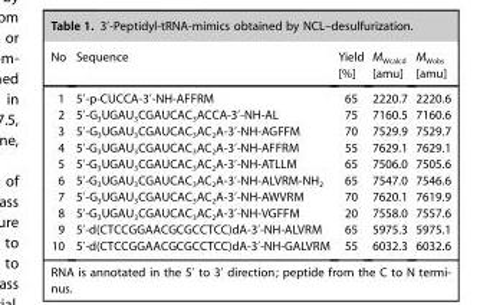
<table><thead><tr><td>No</td><td>Sequence</td><td>Yield [%]</td><td>M<sub>Wcalcd</sub> [amu]</td><td>M<sub>Wobs</sub> [amu]</td></tr></thead><tbody><tr><td>1</td><td>5’-p-CUCCA-3’-NH-AFFRM</td><td>65</td><td>2220.7</td><td>2220.6</td></tr><tr><td>2</td><td>5’-G<sub>3</sub>UGAU<sub>3</sub>CGAUCAC<sub>3</sub>ACCA-3’-NH-AL</td><td>75</td><td>7160.5</td><td>7160.6</td></tr><tr><td>3</td><td>5’-G<sub>3</sub>UGAU<sub>3</sub>CGAUCAC<sub>3</sub>AC<sub>2</sub>A-3’-NH-AGFFM</td><td>70</td><td>7529.9</td><td>7529.7</td></tr><tr><td>4</td><td>5’-G<sub>3</sub>UGAU<sub>3</sub>CGAUCAC<sub>3</sub>AC<sub>2</sub>A-3’-NH-AFFRM</td><td>55</td><td>7629.1</td><td>7629.1</td></tr><tr><td>5</td><td>5’-G<sub>3</sub>UGAU<sub>3</sub>CGAUCAC<sub>3</sub>AC<sub>2</sub>A-3’-NH-ATLLM</td><td>65</td><td>7506.0</td><td>7505.6</td></tr><tr><td>6</td><td>5’-G<sub>3</sub>UGAU<sub>3</sub>CGAUCAC<sub>3</sub>AC<sub>2</sub>A-3’-NH-ALVRM-NH<sub>2</sub></td><td>65</td><td>7547.0</td><td>7546.6</td></tr><tr><td>7</td><td>5’-G<sub>3</sub>UGAU<sub>3</sub>CGAUCAC<sub>3</sub>AC<sub>2</sub>A-3’-NH-AWVRM</td><td>70</td><td>7620.1</td><td>7619.9</td></tr><tr><td>8</td><td>5’-G<sub>3</sub>UGAU<sub>3</sub>CGAUCAC<sub>3</sub>AC<sub>2</sub>A-3’-NH-VGFFM</td><td>20</td><td>7558.0</td><td>7557.6</td></tr><tr><td>9</td><td>5’-d(CTCCGGAACGCGCCTCC)dA-3’-NH-ALVRM</td><td>65</td><td>5975.3</td><td>5975.1</td></tr><tr><td>10</td><td>5’-d(CTCCGGAACGCGCCTCC)dA-3’-NH-GALVRM</td><td>55</td><td>6032.3</td><td>6032.6</td></tr></tbody></table>